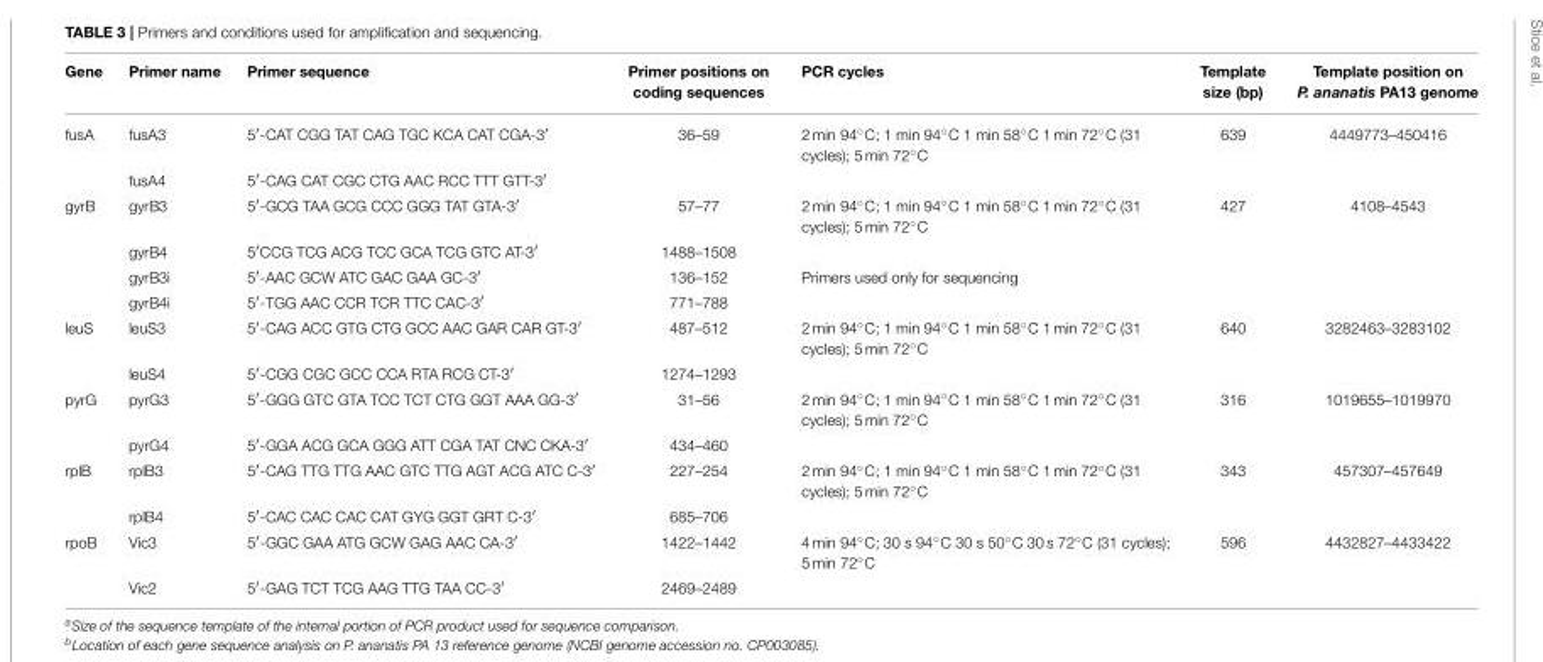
<table><thead><tr><td>Gene</td><td>Primer name</td><td>Primer sequence</td><td>Primer positions on coding sequences</td><td>PCR cycles</td><td>Template size (bp)</td><td>Template position on P. ananatis PA13 genome</td></tr></thead><tbody><tr><td rowspan="2">fusA</td><td>fusA3</td><td>5′-CAT CGG TAT CAG TGC KCA CAT CGA-3′</td><td>36–59</td><td>2 min 94◦C; 1 min 94◦C 1 min 58◦C 1 min 72◦C (31 cycles); 5 min 72◦C</td><td>639</td><td>4449773–450416</td></tr><tr><td>fusA4</td><td>5′-CAG CAT CGC CTG AAC RCC TTT GTT-3′</td><td></td><td></td><td></td><td></td></tr><tr><td rowspan="4">gyrB</td><td>gyrB3</td><td>5′-GCG TAA GCG CCC GGG TAT GTA-3′</td><td>57–77</td><td>2 min 94◦C; 1 min 94◦C 1 min 58◦C 1 min 72◦C (31 cycles); 5 min 72◦C</td><td>427</td><td>4108–4543</td></tr><tr><td>gyrB4</td><td>5′CCG TCG ACG TCC GCA TCG GTC AT-3′</td><td>1488–1508</td><td></td><td></td><td></td></tr><tr><td>gyrB3i</td><td>5′-AAC GCW ATC GAC GAA GC-3′</td><td>136–152</td><td>Primers used only for sequencing</td><td></td><td></td></tr><tr><td>gyrB4i</td><td>5′-TGG AAC CCR TCR TTC CAC-3′</td><td>771–788</td><td></td><td></td><td></td></tr><tr><td rowspan="2">leuS</td><td>leuS3</td><td>5′-CAG ACC GTG CTG GCC AAC GAR CAR GT-3′</td><td>487–512</td><td>2 min 94◦C; 1 min 94◦C 1 min 58◦C 1 min 72◦C (31 cycles); 5 min 72◦C</td><td>640</td><td>3282463–3283102</td></tr><tr><td>leuS4</td><td>5′-CGG CGC GCC CCA RTA RCG CT-3′</td><td>1274–1293</td><td></td><td></td><td></td></tr><tr><td rowspan="2">pyrG</td><td>pyrG3</td><td>5′-GGG GTC GTA TCC TCT CTG GGT AAA GG-3′</td><td>31–56</td><td>2 min 94◦C; 1 min 94◦C 1 min 58◦C 1 min 72◦C (31 cycles); 5 min 72◦C</td><td>316</td><td>1019655–1019970</td></tr><tr><td>pyrG4</td><td>5′-GGA ACG GCA GGG ATT CGA TAT CNC CKA-3′</td><td>434–460</td><td></td><td></td><td></td></tr><tr><td rowspan="2">rplB</td><td>rplB3</td><td>5′-CAG TTG TTG AAC GTC TTG AGT ACG ATC C-3′</td><td>227–254</td><td>2 min 94◦C; 1 min 94◦C 1 min 58◦C 1 min 72◦C (31 cycles); 5 min 72◦C</td><td>343</td><td>457307–457649</td></tr><tr><td>rplB4</td><td>5′-CAC CAC CAC CAT GYG GGT GRT C-3′</td><td>685–706</td><td></td><td></td><td></td></tr><tr><td rowspan="2">rpoB</td><td>Vic3</td><td>5′-GGC GAA ATG GCW GAG AAC CA-3′</td><td>1422–1442</td><td>4 min 94◦C; 30 s 94◦C 30 s 50◦C 30 s 72◦C (31 cycles); 5 min 72◦C</td><td>596</td><td>4432827–4433422</td></tr><tr><td>Vic2</td><td>5′-GAG TCT TCG AAG TTG TAA CC-3′</td><td>2469–2489</td><td></td><td></td><td></td></tr></tbody></table>